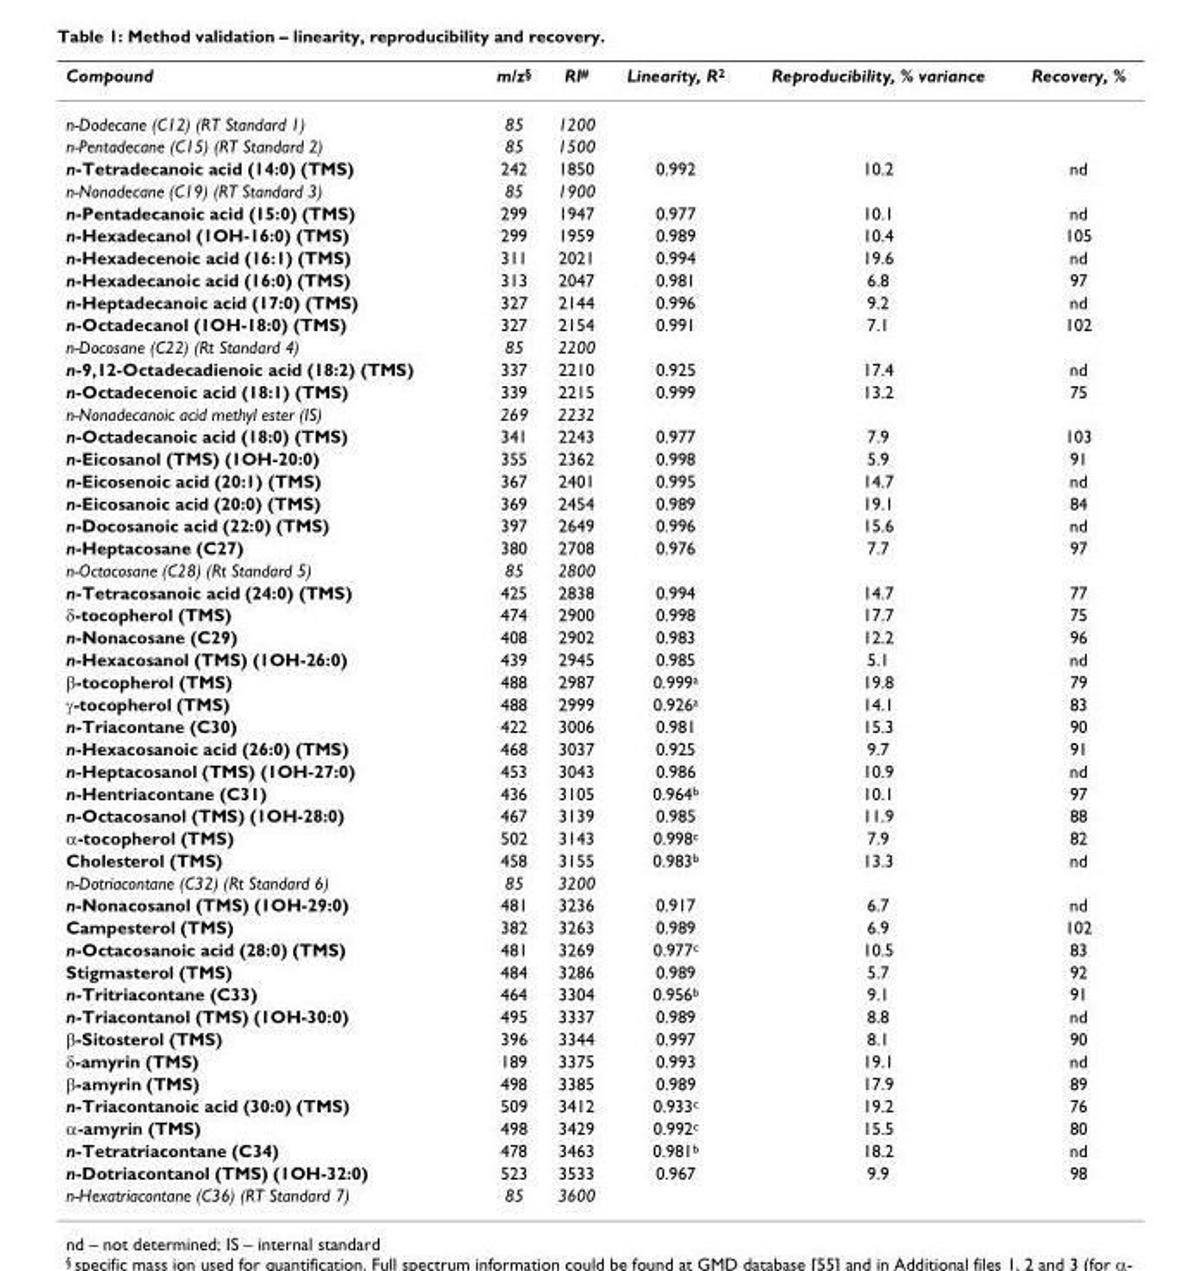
<table><thead><tr><td>Compound</td><td>m/z<sup>§</sup></td><td>RI<sup>#</sup></td><td>Linearity, R<sup>2</sup></td><td>Reproducibility, % variance</td><td>Recovery, %</td></tr></thead><tbody><tr><td>n-Dodecane (C12) (RT Standard 1)</td><td>85</td><td>1200</td><td></td><td></td><td></td></tr><tr><td>n-Pentadecane (C15) (RT Standard 2)</td><td>85</td><td>1500</td><td></td><td></td><td></td></tr><tr><td>n-Tetradecanoic acid (14:0) (TMS)</td><td>242</td><td>1850</td><td>0.992</td><td>10.2</td><td>nd</td></tr><tr><td>n-Nonadecane (C19) (RT Standard 3)</td><td>85</td><td>1900</td><td></td><td></td><td></td></tr><tr><td>n-Pentadecanoic acid (15:0) (TMS)</td><td>299</td><td>1947</td><td>0.977</td><td>10.1</td><td>nd</td></tr><tr><td>n-Hexadecanol (1OH-16:0) (TMS)</td><td>299</td><td>1959</td><td>0.989</td><td>10.4</td><td>105</td></tr><tr><td>n-Hexadecenoic acid (16:1) (TMS)</td><td>311</td><td>2021</td><td>0.994</td><td>19.6</td><td>nd</td></tr><tr><td>n-Hexadecanoic acid (16:0) (TMS)</td><td>313</td><td>2047</td><td>0.981</td><td>6.8</td><td>97</td></tr><tr><td>n-Heptadecanoic acid (17:0) (TMS)</td><td>327</td><td>2144</td><td>0.996</td><td>9.2</td><td>nd</td></tr><tr><td>n-Octadecanol (1OH-18:0) (TMS)</td><td>327</td><td>2154</td><td>0.991</td><td>7.1</td><td>102</td></tr><tr><td>n-Docosane (C22) (Rt Standard 4)</td><td>85</td><td>2200</td><td></td><td></td><td></td></tr><tr><td>n-9,12-Octadecadienoic acid (18:2) (TMS)</td><td>337</td><td>2210</td><td>0.925</td><td>17.4</td><td>nd</td></tr><tr><td>n-Octadecenoic acid (18:1) (TMS)</td><td>339</td><td>2215</td><td>0.999</td><td>13.2</td><td>75</td></tr><tr><td>n-Nonadecanoic acid methyl ester (IS)</td><td>269</td><td>2232</td><td></td><td></td><td></td></tr><tr><td>n-Octadecanoic acid (18:0) (TMS)</td><td>341</td><td>2243</td><td>0.977</td><td>7.9</td><td>103</td></tr><tr><td>n-Eicosanol (TMS) (1OH-20:0)</td><td>355</td><td>2362</td><td>0.998</td><td>5.9</td><td>91</td></tr><tr><td>n-Eicosenoic acid (20:1) (TMS)</td><td>367</td><td>2401</td><td>0.995</td><td>14.7</td><td>nd</td></tr><tr><td>n-Eicosanoic acid (20:0) (TMS)</td><td>369</td><td>2454</td><td>0.989</td><td>19.1</td><td>84</td></tr><tr><td>n-Docosanoic acid (22:0) (TMS)</td><td>397</td><td>2649</td><td>0.996</td><td>15.6</td><td>nd</td></tr><tr><td>n-Heptacosane (C27)</td><td>380</td><td>2708</td><td>0.976</td><td>7.7</td><td>97</td></tr><tr><td>n-Octacosane (C28) (Rt Standard 5)</td><td>85</td><td>2800</td><td></td><td></td><td></td></tr><tr><td>n-Tetracosanoic acid (24:0) (TMS)</td><td>425</td><td>2838</td><td>0.994</td><td>14.7</td><td>77</td></tr><tr><td>δ-tocopherol (TMS)</td><td>474</td><td>2900</td><td>0.998</td><td>17.7</td><td>75</td></tr><tr><td>n-Nonacosane (C29)</td><td>408</td><td>2902</td><td>0.983</td><td>12.2</td><td>96</td></tr><tr><td>n-Hexacosanol (TMS) (1OH-26:0)</td><td>439</td><td>2945</td><td>0.985</td><td>5.1</td><td>nd</td></tr><tr><td>β-tocopherol (TMS)</td><td>488</td><td>2987</td><td>0.999<sup>a</sup></td><td>19.8</td><td>79</td></tr><tr><td>γ-tocopherol (TMS)</td><td>488</td><td>2999</td><td>0.926<sup>a</sup></td><td>14.1</td><td>83</td></tr><tr><td>n-Triacontane (C30)</td><td>422</td><td>3006</td><td>0.981</td><td>15.3</td><td>90</td></tr><tr><td>n-Hexacosanoic acid (26:0) (TMS)</td><td>468</td><td>3037</td><td>0.925</td><td>9.7</td><td>91</td></tr><tr><td>n-Heptacosanol (TMS) (1OH-27:0)</td><td>453</td><td>3043</td><td>0.986</td><td>10.9</td><td>nd</td></tr><tr><td>n-Hentriacontane (C31)</td><td>436</td><td>3105</td><td>0.964<sup>b</sup></td><td>10.1</td><td>97</td></tr><tr><td>n-Octacosanol (TMS) (1OH-28:0)</td><td>467</td><td>3139</td><td>0.985</td><td>11.9</td><td>88</td></tr><tr><td>α-tocopherol (TMS)</td><td>502</td><td>3143</td><td>0.998<sup>c</sup></td><td>7.9</td><td>82</td></tr><tr><td>Cholesterol (TMS)</td><td>458</td><td>3155</td><td>0.983<sup>b</sup></td><td>13.3</td><td>nd</td></tr><tr><td>n-Dotriacontane (C32) (Rt Standard 6)</td><td>85</td><td>3200</td><td></td><td></td><td></td></tr><tr><td>n-Nonacosanol (TMS) (1OH-29:0)</td><td>481</td><td>3236</td><td>0.917</td><td>6.7</td><td>nd</td></tr><tr><td>Campesterol (TMS)</td><td>382</td><td>3263</td><td>0.989</td><td>6.9</td><td>102</td></tr><tr><td>n-Octacosanoic acid (28:0) (TMS)</td><td>481</td><td>3269</td><td>0.977<sup>c</sup></td><td>10.5</td><td>83</td></tr><tr><td>Stigmasterol (TMS)</td><td>484</td><td>3286</td><td>0.989</td><td>5.7</td><td>92</td></tr><tr><td>n-Tritriacontane (C33)</td><td>464</td><td>3304</td><td>0.956<sup>b</sup></td><td>9.1</td><td>91</td></tr><tr><td>n-Triacontanol (TMS) (1OH-30:0)</td><td>495</td><td>3337</td><td>0.989</td><td>8.8</td><td>nd</td></tr><tr><td>β-Sitosterol (TMS)</td><td>396</td><td>3344</td><td>0.997</td><td>8.1</td><td>90</td></tr><tr><td>δ-amyrin (TMS)</td><td>189</td><td>3375</td><td>0.993</td><td>19.1</td><td>nd</td></tr><tr><td>β-amyrin (TMS)</td><td>498</td><td>3385</td><td>0.989</td><td>17.9</td><td>89</td></tr><tr><td>n-Triacontanoic acid (30:0) (TMS)</td><td>509</td><td>3412</td><td>0.933<sup>c</sup></td><td>19.2</td><td>76</td></tr><tr><td>α-amyrin (TMS)</td><td>498</td><td>3429</td><td>0.992<sup>c</sup></td><td>15.5</td><td>80</td></tr><tr><td>n-Tetratriacontane (C34)</td><td>478</td><td>3463</td><td>0.981<sup>b</sup></td><td>18.2</td><td>nd</td></tr><tr><td>n-Dotriacontanol (TMS) (1OH-32:0)</td><td>523</td><td>3533</td><td>0.967</td><td>9.9</td><td>98</td></tr><tr><td>n-Hexatriacontane (C36) (RT Standard 7)</td><td>85</td><td>3600</td><td></td><td></td><td></td></tr></tbody></table>